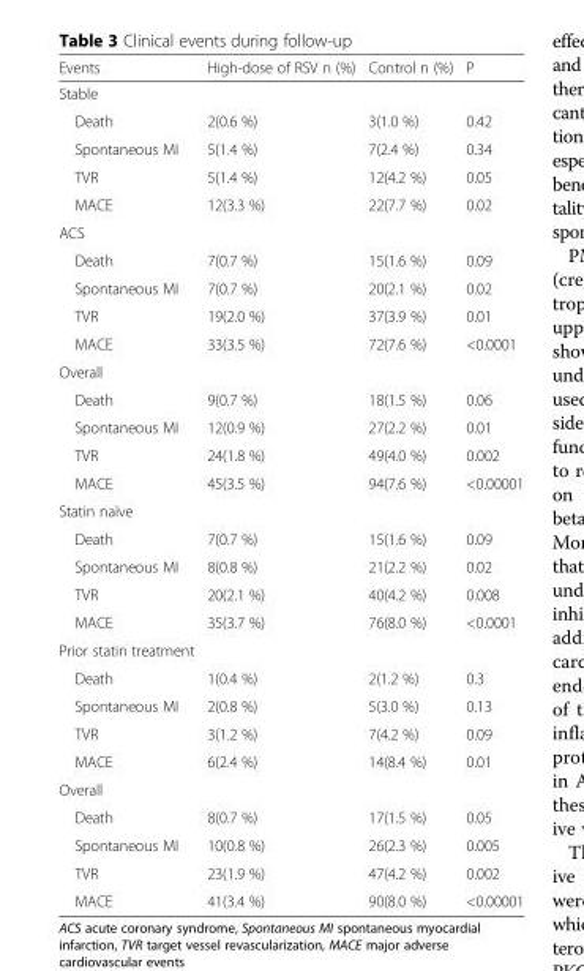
<table><thead><tr><td>Events</td><td>High-dose of RSV n (%)</td><td>Control n (%)</td><td>P</td></tr></thead><tbody><tr><td colspan="4">Stable</td></tr><tr><td>Death</td><td>2(0.6 %)</td><td>3(1.0 %)</td><td>0.42</td></tr><tr><td>Spontaneous MI</td><td>5(1.4 %)</td><td>7(2.4 %)</td><td>0.34</td></tr><tr><td>TVR</td><td>5(1.4 %)</td><td>12(4.2 %)</td><td>0.05</td></tr><tr><td>MACE</td><td>12(3.3 %)</td><td>22(7.7 %)</td><td>0.02</td></tr><tr><td colspan="4">ACS</td></tr><tr><td>Death</td><td>7(0.7 %)</td><td>15(1.6 %)</td><td>0.09</td></tr><tr><td>Spontaneous MI</td><td>7(0.7 %)</td><td>20(2.1 %)</td><td>0.02</td></tr><tr><td>TVR</td><td>19(2.0 %)</td><td>37(3.9 %)</td><td>0.01</td></tr><tr><td>MACE</td><td>33(3.5 %)</td><td>72(7.6 %)</td><td>&lt;0.0001</td></tr><tr><td colspan="4">Overall</td></tr><tr><td>Death</td><td>9(0.7 %)</td><td>18(1.5 %)</td><td>0.06</td></tr><tr><td>Spontaneous MI</td><td>12(0.9 %)</td><td>27(2.2 %)</td><td>0.01</td></tr><tr><td>TVR</td><td>24(1.8 %)</td><td>49(4.0 %)</td><td>0.002</td></tr><tr><td>MACE</td><td>45(3.5 %)</td><td>94(7.6 %)</td><td>&lt;0.00001</td></tr><tr><td colspan="4">Statin naïve</td></tr><tr><td>Death</td><td>7(0.7 %)</td><td>15(1.6 %)</td><td>0.09</td></tr><tr><td>Spontaneous MI</td><td>8(0.8 %)</td><td>21(2.2 %)</td><td>0.02</td></tr><tr><td>TVR</td><td>20(2.1 %)</td><td>40(4.2 %)</td><td>0.008</td></tr><tr><td>MACE</td><td>35(3.7 %)</td><td>76(8.0 %)</td><td>&lt;0.0001</td></tr><tr><td colspan="4">Prior statin treatment</td></tr><tr><td>Death</td><td>1(0.4 %)</td><td>2(1.2 %)</td><td>0.3</td></tr><tr><td>Spontaneous MI</td><td>2(0.8 %)</td><td>5(3.0 %)</td><td>0.13</td></tr><tr><td>TVR</td><td>3(1.2 %)</td><td>7(4.2 %)</td><td>0.09</td></tr><tr><td>MACE</td><td>6(2.4 %)</td><td>14(8.4 %)</td><td>0.01</td></tr><tr><td colspan="4">Overall</td></tr><tr><td>Death</td><td>8(0.7 %)</td><td>17(1.5 %)</td><td>0.05</td></tr><tr><td>Spontaneous MI</td><td>10(0.8 %)</td><td>26(2.3 %)</td><td>0.005</td></tr><tr><td>TVR</td><td>23(1.9 %)</td><td>47(4.2 %)</td><td>0.002</td></tr><tr><td>MACE</td><td>41(3.4 %)</td><td>90(8.0 %)</td><td>&lt;0.00001</td></tr></tbody></table>